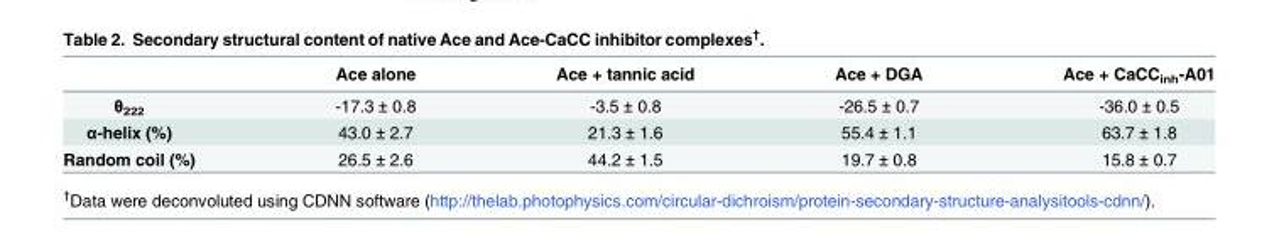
<table><thead><tr><td></td><td>Ace alone</td><td>Ace + tannic acid</td><td>Ace + DGA</td><td>Ace + CaCC<sub>inh</sub>-A01</td></tr></thead><tbody><tr><td>θ<sub>222</sub></td><td>-17.3 ± 0.8</td><td>-3.5 ± 0.8</td><td>-26.5 ± 0.7</td><td>-36.0 ± 0.5</td></tr><tr><td>α-helix (%)</td><td>43.0 ± 2.7</td><td>21.3 ± 1.6</td><td>55.4 ± 1.1</td><td>63.7 ± 1.8</td></tr><tr><td>Random coil (%)</td><td>26.5 ± 2.6</td><td>44.2 ± 1.5</td><td>19.7 ± 0.8</td><td>15.8 ± 0.7</td></tr></tbody></table>